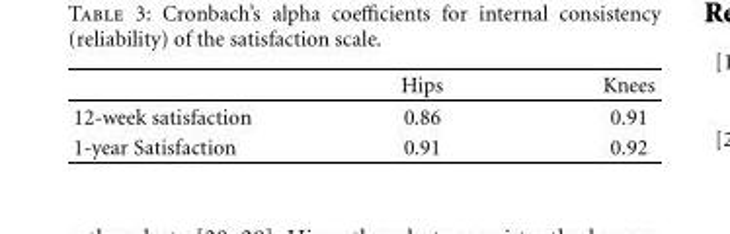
<table><thead><tr><td></td><td>Hips</td><td>Knees</td></tr></thead><tbody><tr><td>12-week satisfaction</td><td>0.86</td><td>0.91</td></tr><tr><td>1-year Satisfaction</td><td>0.91</td><td>0.92</td></tr></tbody></table>